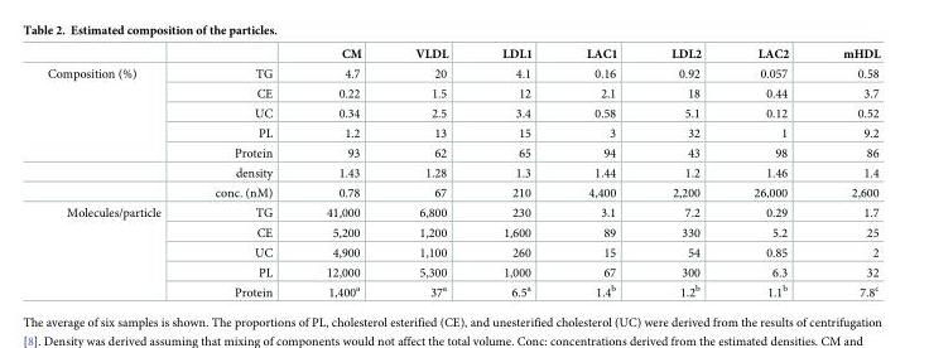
<table><thead><tr><td></td><td></td><td>CM</td><td>VLDL</td><td>LDL1</td><td>LAC1</td><td>LDL2</td><td>LAC2</td><td>mHDL</td></tr></thead><tbody><tr><td rowspan="7">Composition (%)</td><td>TG</td><td>4.7</td><td>20</td><td>4.1</td><td>0.16</td><td>0.92</td><td>0.057</td><td>0.58</td></tr><tr><td>CE</td><td>0.22</td><td>1.5</td><td>12</td><td>2.1</td><td>18</td><td>0.44</td><td>3.7</td></tr><tr><td>UC</td><td>0.34</td><td>2.5</td><td>3.4</td><td>0.58</td><td>5.1</td><td>0.12</td><td>0.52</td></tr><tr><td>PL</td><td>1.2</td><td>13</td><td>15</td><td>3</td><td>32</td><td>1</td><td>9.2</td></tr><tr><td>Protein</td><td>93</td><td>62</td><td>65</td><td>94</td><td>43</td><td>98</td><td>86</td></tr><tr><td>density</td><td>1.43</td><td>1.28</td><td>1.3</td><td>1.44</td><td>1.2</td><td>1.46</td><td>1.4</td></tr><tr><td>conc. (nM)</td><td>0.78</td><td>67</td><td>210</td><td>4,400</td><td>2,200</td><td>26,000</td><td>2,600</td></tr><tr><td rowspan="5">Molecules/particle</td><td>TG</td><td>41,000</td><td>6,800</td><td>230</td><td>3.1</td><td>7.2</td><td>0.29</td><td>1.7</td></tr><tr><td>CE</td><td>5,200</td><td>1,200</td><td>1,600</td><td>89</td><td>330</td><td>5.2</td><td>25</td></tr><tr><td>UC</td><td>4,900</td><td>1,100</td><td>260</td><td>15</td><td>54</td><td>0.85</td><td>2</td></tr><tr><td>PL</td><td>12,000</td><td>5,300</td><td>1,000</td><td>67</td><td>300</td><td>6.3</td><td>32</td></tr><tr><td>Protein</td><td>1,400<sup>a</sup></td><td>37<sup>a</sup></td><td>6.5<sup>a</sup></td><td>1.4<sup>b</sup></td><td>1.2<sup>b</sup></td><td>1.1<sup>b</sup></td><td>7.8<sup>c</sup></td></tr></tbody></table>